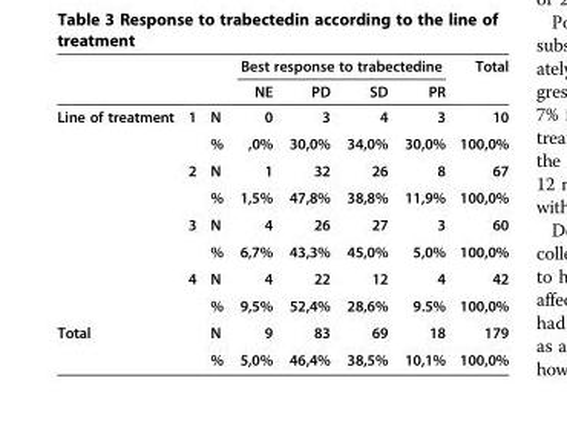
<table><thead><tr><td rowspan="2"></td><td rowspan="2"></td><td rowspan="2"></td><td colspan="4">Best response to trabectedine</td><td rowspan="2">Total</td></tr><tr><td>NE</td><td>PD</td><td>SD</td><td>PR</td></tr></thead><tbody><tr><td rowspan="8">Line of treatment</td><td>1</td><td>N</td><td>0</td><td>3</td><td>4</td><td>3</td><td>10</td></tr><tr><td></td><td>%</td><td>,0%</td><td>30,0%</td><td>34,0%</td><td>30,0%</td><td>100,0%</td></tr><tr><td>2</td><td>N</td><td>1</td><td>32</td><td>26</td><td>8</td><td>67</td></tr><tr><td></td><td>%</td><td>1,5%</td><td>47,8%</td><td>38,8%</td><td>11,9%</td><td>100,0%</td></tr><tr><td>3</td><td>N</td><td>4</td><td>26</td><td>27</td><td>3</td><td>60</td></tr><tr><td></td><td>%</td><td>6,7%</td><td>43,3%</td><td>45,0%</td><td>5,0%</td><td>100,0%</td></tr><tr><td>4</td><td>N</td><td>4</td><td>22</td><td>12</td><td>4</td><td>42</td></tr><tr><td></td><td>%</td><td>9,5%</td><td>52,4%</td><td>28,6%</td><td>9.5%</td><td>100,0%</td></tr><tr><td colspan="2">Total</td><td>N</td><td>9</td><td>83</td><td>69</td><td>18</td><td>179</td></tr><tr><td></td><td></td><td>%</td><td>5,0%</td><td>46,4%</td><td>38,5%</td><td>10,1%</td><td>100,0%</td></tr></tbody></table>